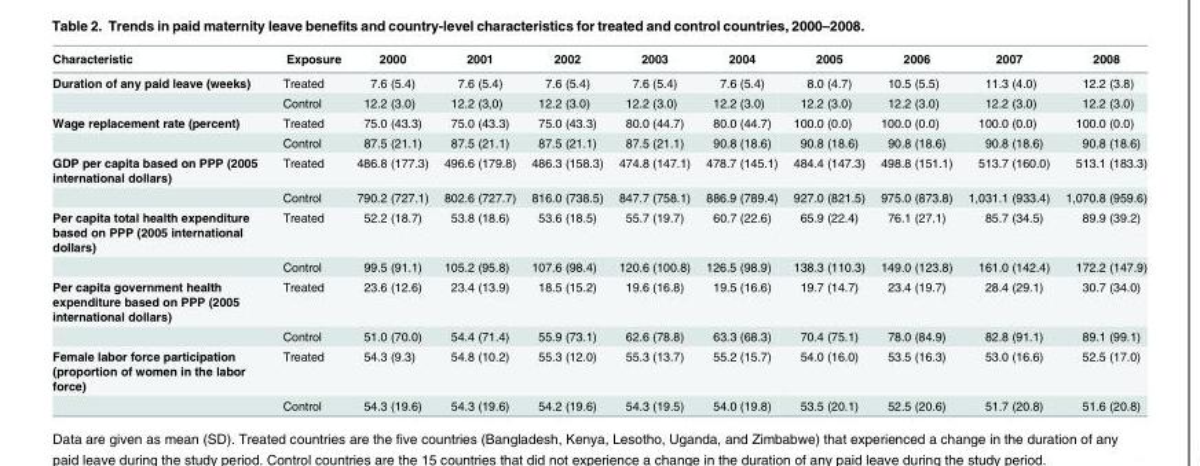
<table><thead><tr><td>Characteristic</td><td>Exposure</td><td>2000</td><td>2001</td><td>2002</td><td>2003</td><td>2004</td><td>2005</td><td>2006</td><td>2007</td><td>2008</td></tr></thead><tbody><tr><td rowspan="2">Duration of any paid leave (weeks)</td><td>Treated</td><td>7.6 (5.4)</td><td>7.6 (5.4)</td><td>7.6 (5.4)</td><td>7.6 (5.4)</td><td>7.6 (5.4)</td><td>8.0 (4.7)</td><td>10.5 (5.5)</td><td>11.3 (4.0)</td><td>12.2 (3.8)</td></tr><tr><td>Control</td><td>12.2 (3.0)</td><td>12.2 (3,0)</td><td>12.2 (3.0)</td><td>12.2 (3.0)</td><td>12.2 (3.0)</td><td>12.2 (3.0)</td><td>12.2 (3.0)</td><td>12.2 (3.0)</td><td>12.2 (3.0)</td></tr><tr><td rowspan="2">Wage replacement rate (percent)</td><td>Treated</td><td>75.0 (43.3)</td><td>75.0 (43.3)</td><td>75.0 (43.3)</td><td>80.0 (44.7)</td><td>80.0 (44.7)</td><td>100.0 (0.0)</td><td>100.0 (0.0)</td><td>100.0 (0.0)</td><td>100.0 (0.0)</td></tr><tr><td>Control</td><td>87.5 (21.1)</td><td>87.5 (21.1)</td><td>87.5 (21.1)</td><td>87.5 (21.1)</td><td>90.8 (18.6)</td><td>90.8 (18.6)</td><td>90.8 (18.6)</td><td>90.8 (18.6)</td><td>90.8 (18.6)</td></tr><tr><td rowspan="2">GDP per capita based on PPP (2005 international dollars)</td><td>Treated</td><td>486.8 (177.3)</td><td>496.6 (179.8)</td><td>486.3 (158.3)</td><td>474.8 (147.1)</td><td>478.7 (145.1)</td><td>484.4 (147.3)</td><td>498.8 (151.1)</td><td>513.7 (160.0)</td><td>513.1 (183.3)</td></tr><tr><td>Control</td><td>790.2 (727.1)</td><td>802.6 (727.7)</td><td>816.0 (738.5)</td><td>847.7 (758.1)</td><td>886.9 (789.4)</td><td>927.0 (821.5)</td><td>975.0 (873.8)</td><td>1,031.1 (933.4)</td><td>1,070.8 (959.6)</td></tr><tr><td rowspan="2">Per capita total health expenditure based on PPP (2005 international dollars)</td><td>Treated</td><td>52.2 (18.7)</td><td>53.8 (18.6)</td><td>53.6 (18.5)</td><td>55.7 (19.7)</td><td>60.7 (22.6)</td><td>65.9 (22.4)</td><td>76.1 (27.1)</td><td>85.7 (34.5)</td><td>89.9 (39.2)</td></tr><tr><td>Control</td><td>99.5 (91.1)</td><td>105.2 (95.8)</td><td>107.6 (98.4)</td><td>120.6 (100.8)</td><td>126.5 (98.9)</td><td>138.3 (110.3)</td><td>149.0 (123.8)</td><td>161.0 (142.4)</td><td>172.2 (147.9)</td></tr><tr><td rowspan="2">Per capita government health expenditure based on PPP (2005 international dollars)</td><td>Treated</td><td>23.6 (12.6)</td><td>23.4 (13.9)</td><td>18.5 (15.2)</td><td>19.6 (16.8)</td><td>19.5 (16.6)</td><td>19.7 (14.7)</td><td>23.4 (19.7)</td><td>28.4 (29.1)</td><td>30.7 (34.0)</td></tr><tr><td>Control</td><td>51.0 (70.0)</td><td>54.4 (71.4)</td><td>55.9 (73.1)</td><td>62.6 (78.8)</td><td>63.3 (68.3)</td><td>70.4 (75.1)</td><td>78.0 (84.9)</td><td>82.8 (91.1)</td><td>89.1 (99.1)</td></tr><tr><td rowspan="2">Female labor force participation (proportion of women in the labor force)</td><td>Treated</td><td>54.3 (9.3)</td><td>54.8 (10.2)</td><td>55.3 (12.0)</td><td>55.3 (13.7)</td><td>55.2 (15.7)</td><td>54.0 (16.0)</td><td>53.5 (16.3)</td><td>53.0 (16.6)</td><td>52.5 (17.0)</td></tr><tr><td>Control</td><td>54.3 (19.6)</td><td>54.3 (19.6)</td><td>54.2 (19.6)</td><td>54.3 (19.5)</td><td>54.0 (19.8)</td><td>53.5 (20.1)</td><td>52.5 (20.6)</td><td>51.7 (20.8)</td><td>51.6 (20.8)</td></tr></tbody></table>